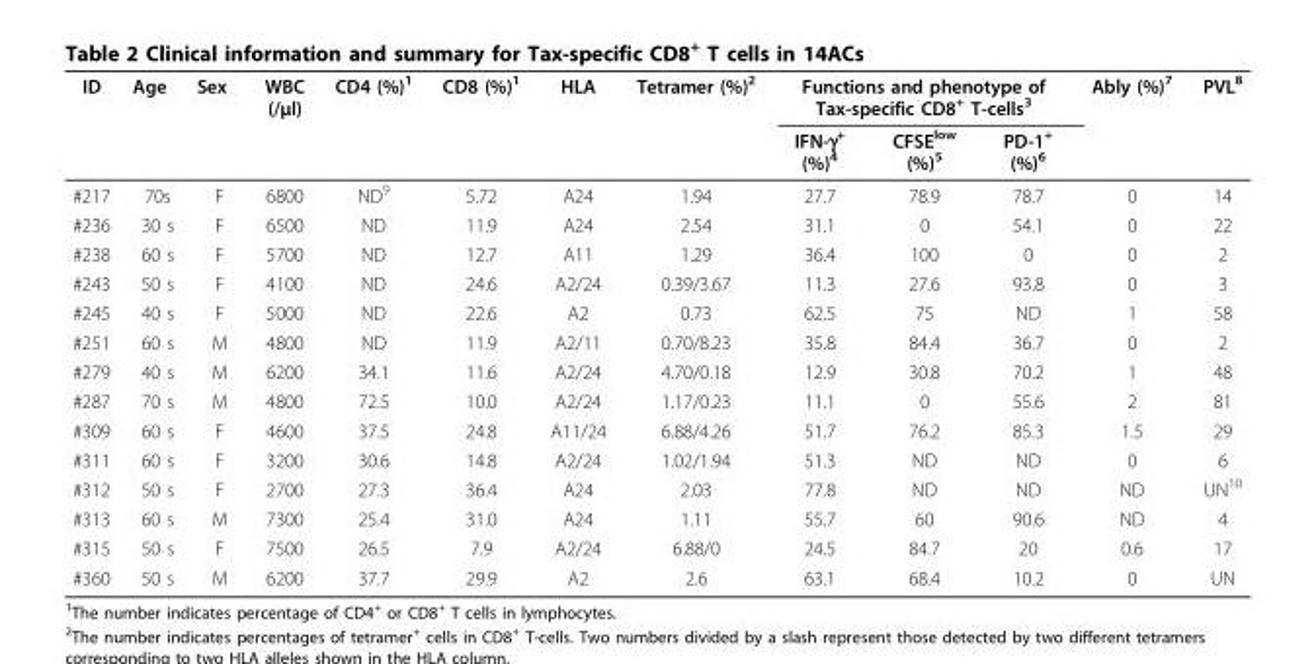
<table><thead><tr><td rowspan="2">ID</td><td rowspan="2">Age</td><td rowspan="2">Sex</td><td rowspan="2">WBC (/μl)</td><td rowspan="2">CD4 (%)<sup>1</sup></td><td rowspan="2">CD8 (%)<sup>1</sup></td><td rowspan="2">HLA</td><td rowspan="2">Tetramer (%)<sup>2</sup></td><td colspan="3">Functions and phenotype of Tax-specific CD8<sup>+</sup> T-cells<sup>3</sup></td><td rowspan="2">Ably (%)<sup>7</sup></td><td rowspan="2">PVL<sup>8</sup></td></tr><tr><td>IFN-γ<sup>+</sup> (%)<sup>4</sup></td><td>CFSE<sup>low</sup> (%)<sup>5</sup></td><td>PD-1<sup>+</sup> (%)<sup>6</sup></td></tr></thead><tbody><tr><td>#217</td><td>70s</td><td>F</td><td>6800</td><td>ND<sup>9</sup></td><td>5.72</td><td>A24</td><td>1.94</td><td>27.7</td><td>78.9</td><td>78.7</td><td>0</td><td>14</td></tr><tr><td>#236</td><td>30 s</td><td>F</td><td>6500</td><td>ND</td><td>11.9</td><td>A24</td><td>2.54</td><td>31.1</td><td>0</td><td>54.1</td><td>0</td><td>22</td></tr><tr><td>#238</td><td>60 s</td><td>F</td><td>5700</td><td>ND</td><td>12.7</td><td>A11</td><td>1.29</td><td>36.4</td><td>100</td><td>0</td><td>0</td><td>2</td></tr><tr><td>#243</td><td>50 s</td><td>F</td><td>4100</td><td>ND</td><td>24.6</td><td>A2/24</td><td>0.39/3.67</td><td>11.3</td><td>27.6</td><td>93.8</td><td>0</td><td>3</td></tr><tr><td>#245</td><td>40 s</td><td>F</td><td>5000</td><td>ND</td><td>22.6</td><td>A2</td><td>0.73</td><td>62.5</td><td>75</td><td>ND</td><td>1</td><td>58</td></tr><tr><td>#251</td><td>60 s</td><td>M</td><td>4800</td><td>ND</td><td>11.9</td><td>A2/11</td><td>0.70/8.23</td><td>35.8</td><td>84.4</td><td>36.7</td><td>0</td><td>2</td></tr><tr><td>#279</td><td>40 s</td><td>M</td><td>6200</td><td>34.1</td><td>11.6</td><td>A2/24</td><td>4.70/0.18</td><td>12.9</td><td>30.8</td><td>70.2</td><td>1</td><td>48</td></tr><tr><td>#287</td><td>70 s</td><td>M</td><td>4800</td><td>72.5</td><td>10.0</td><td>A2/24</td><td>1.17/0.23</td><td>11.1</td><td>0</td><td>55.6</td><td>2</td><td>81</td></tr><tr><td>#309</td><td>60 s</td><td>F</td><td>4600</td><td>37.5</td><td>24.8</td><td>A11/24</td><td>6.88/4.26</td><td>51.7</td><td>76.2</td><td>85.3</td><td>1.5</td><td>29</td></tr><tr><td>#311</td><td>60 s</td><td>F</td><td>3200</td><td>30.6</td><td>14.8</td><td>A2/24</td><td>1.02/1.94</td><td>51.3</td><td>ND</td><td>ND</td><td>0</td><td>6</td></tr><tr><td>#312</td><td>50 s</td><td>F</td><td>2700</td><td>27.3</td><td>36.4</td><td>A24</td><td>2.03</td><td>77.8</td><td>ND</td><td>ND</td><td>ND</td><td>UN<sup>10</sup></td></tr><tr><td>#313</td><td>60 s</td><td>M</td><td>7300</td><td>25.4</td><td>31.0</td><td>A24</td><td>1.11</td><td>55.7</td><td>60</td><td>90.6</td><td>ND</td><td>4</td></tr><tr><td>#315</td><td>50 s</td><td>F</td><td>7500</td><td>26.5</td><td>7.9</td><td>A2/24</td><td>6.88/0</td><td>24.5</td><td>84.7</td><td>20</td><td>0.6</td><td>17</td></tr><tr><td>#360</td><td>50 s</td><td>M</td><td>6200</td><td>37.7</td><td>29.9</td><td>A2</td><td>2.6</td><td>63.1</td><td>68.4</td><td>10.2</td><td>0</td><td>UN</td></tr></tbody></table>